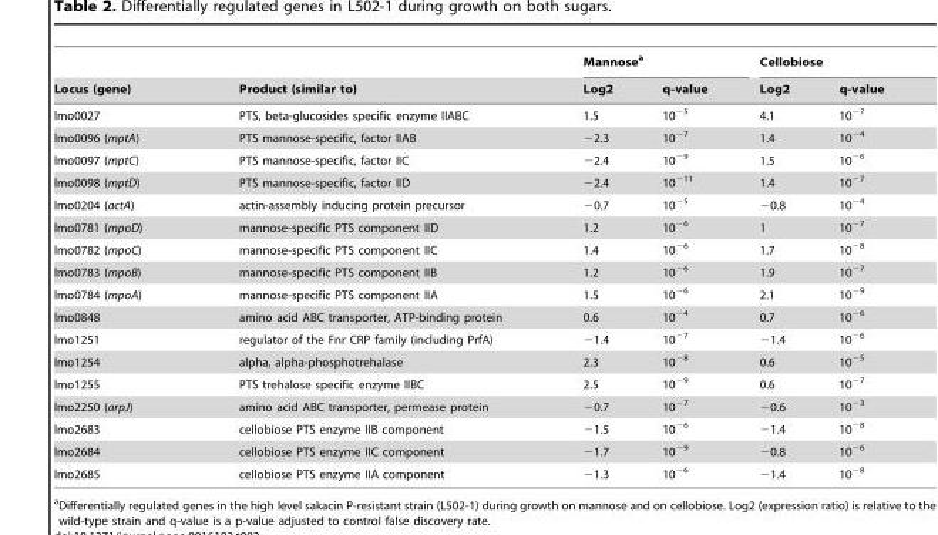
<table><thead><tr><td rowspan="2">Locus (gene)</td><td rowspan="2">Product (similar to)</td><td colspan="2">Mannose<sup>a</sup></td><td colspan="2">Cellobiose</td></tr><tr><td>Log2</td><td>q-value</td><td>Log2</td><td>q-value</td></tr></thead><tbody><tr><td>lmo0027</td><td>PTS, beta-glucosides specific enzyme IIABC</td><td>1.5</td><td>10<sup>−5</sup></td><td>4.1</td><td>10<sup>−7</sup></td></tr><tr><td>lmo0096 (mptA)</td><td>PTS mannose-specific, factor IIAB</td><td>−2.3</td><td>10<sup>−7</sup></td><td>1.4</td><td>10<sup>−4</sup></td></tr><tr><td>lmo0097 (mptC)</td><td>PTS mannose-specific, factor IIC</td><td>−2.4</td><td>10<sup>−9</sup></td><td>1.5</td><td>10<sup>−6</sup></td></tr><tr><td>lmo0098 (mptD)</td><td>PTS mannose-specific, factor IID</td><td>−2.4</td><td>10<sup>−11</sup></td><td>1.4</td><td>10<sup>−7</sup></td></tr><tr><td>lmo0204 (actA)</td><td>actin-assembly inducing protein precursor</td><td>−0.7</td><td>10<sup>−5</sup></td><td>−0.8</td><td>10<sup>−4</sup></td></tr><tr><td>lmo0781 (mpoD)</td><td>mannose-specific PTS component IID</td><td>1.2</td><td>10<sup>−6</sup></td><td>1</td><td>10<sup>−7</sup></td></tr><tr><td>lmo0782 (mpoC)</td><td>mannose-specific PTS component IIC</td><td>1.4</td><td>10<sup>−6</sup></td><td>1.7</td><td>10<sup>−8</sup></td></tr><tr><td>lmo0783 (mpoB)</td><td>mannose-specific PTS component IIB</td><td>1.2</td><td>10<sup>−6</sup></td><td>1.9</td><td>10<sup>−7</sup></td></tr><tr><td>lmo0784 (mpoA)</td><td>mannose-specific PTS component IIA</td><td>1.5</td><td>10<sup>−6</sup></td><td>2.1</td><td>10<sup>−9</sup></td></tr><tr><td>lmo0848</td><td>amino acid ABC transporter, ATP-binding protein</td><td>0.6</td><td>10<sup>−4</sup></td><td>0.7</td><td>10<sup>−6</sup></td></tr><tr><td>lmo1251</td><td>regulator of the Fnr CRP family (including PrfA)</td><td>−1.4</td><td>10<sup>−7</sup></td><td>−1.4</td><td>10<sup>−6</sup></td></tr><tr><td>lmo1254</td><td>alpha, alpha-phosphotrehalase</td><td>2.3</td><td>10<sup>−8</sup></td><td>0.6</td><td>10<sup>−5</sup></td></tr><tr><td>lmo1255</td><td>PTS trehalose specific enzyme IIBC</td><td>2.5</td><td>10<sup>−9</sup></td><td>0.6</td><td>10<sup>−7</sup></td></tr><tr><td>lmo2250 (arpJ)</td><td>amino acid ABC transporter, permease protein</td><td>−0.7</td><td>10<sup>−7</sup></td><td>−0.6</td><td>10<sup>−3</sup></td></tr><tr><td>lmo2683</td><td>cellobiose PTS enzyme IIB component</td><td>−1.5</td><td>10<sup>−6</sup></td><td>−1.4</td><td>10<sup>−8</sup></td></tr><tr><td>lmo2684</td><td>cellobiose PTS enzyme IIC component</td><td>−1.7</td><td>10<sup>−9</sup></td><td>−0.8</td><td>10<sup>−6</sup></td></tr><tr><td>lmo2685</td><td>cellobiose PTS enzyme IIA component</td><td>−1.3</td><td>10<sup>−6</sup></td><td>−1.4</td><td>10<sup>−8</sup></td></tr></tbody></table>